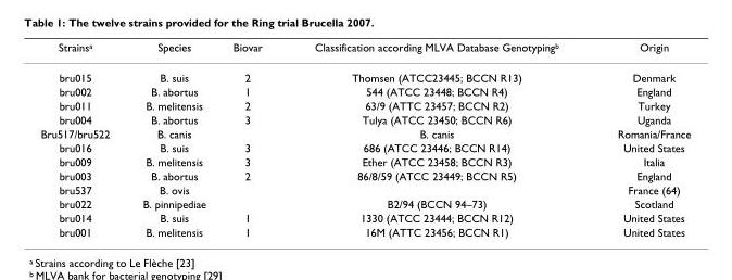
<table><thead><tr><td>Strains<sup>a</sup></td><td>Species</td><td>Biovar</td><td>Classification according MLVA Database Genotyping<sup>b</sup></td><td>Origin</td></tr></thead><tbody><tr><td>bru015</td><td>B. suis</td><td>2</td><td>Thomsen (ATCC23445; BCCN R13)</td><td>Denmark</td></tr><tr><td>bru002</td><td>B. abortus</td><td>1</td><td>544 (ATCC 23448; BCCN R4)</td><td>England</td></tr><tr><td>bru011</td><td>B. melitensis</td><td>2</td><td>63/9 (ATTC 23457; BCCN R2)</td><td>Turkey</td></tr><tr><td>bru004</td><td>B. abortus</td><td>3</td><td>Tulya (ATCC 23450; BCCN R6)</td><td>Uganda</td></tr><tr><td>Bru517/bru522</td><td>B. canis</td><td></td><td>B. canis</td><td>Romania/France</td></tr><tr><td>bru016</td><td>B. suis</td><td>3</td><td>686 (ATCC 23446; BCCN R14)</td><td>United States</td></tr><tr><td>bru009</td><td>B. melitensis</td><td>3</td><td>Ether (ATCC 23458; BCCN R3)</td><td>Italia</td></tr><tr><td>bru003</td><td>B. abortus</td><td>2</td><td>86/8/59 (ATCC 23449; BCCN R5)</td><td>England</td></tr><tr><td>bru537</td><td>B. ovis</td><td></td><td></td><td>France (64)</td></tr><tr><td>bru022</td><td>B. pinnipediae</td><td></td><td>B2/94 (BCCN 94–73)</td><td>Scotland</td></tr><tr><td>bru014</td><td>B. suis</td><td>1</td><td>1330 (ATCC 23444; BCCN R12)</td><td>United States</td></tr><tr><td>bru001</td><td>B. melitensis</td><td>1</td><td>16M (ATTC 23456; BCCN R1)</td><td>United States</td></tr></tbody></table>